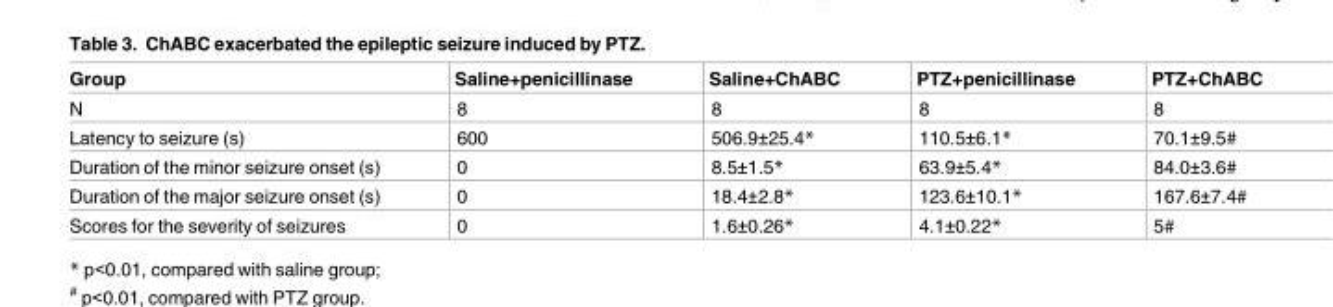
<table><thead><tr><td>Group</td><td>Saline+penicillinase</td><td>Saline+ChABC</td><td>PTZ+penicillinase</td><td>PTZ+ChABC</td></tr></thead><tbody><tr><td>N</td><td>8</td><td>8</td><td>8</td><td>8</td></tr><tr><td>Latency to seizure (s)</td><td>600</td><td>506.9±25.4*</td><td>110.5±6.1*</td><td>70.1±9.5#</td></tr><tr><td>Duration of the minor seizure onset (s)</td><td>0</td><td>8.5±1.5*</td><td>63.9±5.4*</td><td>84.0±3.6#</td></tr><tr><td>Duration of the major seizure onset (s)</td><td>0</td><td>18.4±2.8*</td><td>123.6±10.1*</td><td>167.6±7.4#</td></tr><tr><td>Scores for the severity of seizures</td><td>0</td><td>1.6±0.26*</td><td>4.1±0.22*</td><td>5#</td></tr></tbody></table>